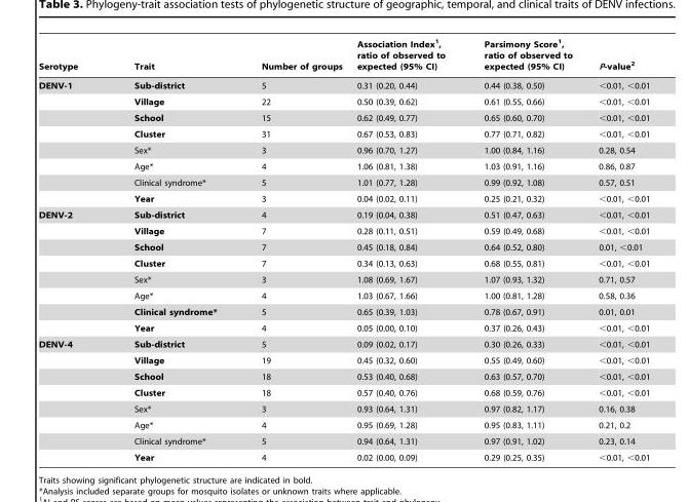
<table><thead><tr><td>Serotype</td><td>Trait</td><td>Number of groups</td><td>Association Index<sup>1</sup>, ratio of observed to expected (95% CI)</td><td>Parsimony Score<sup>1</sup>, ratio of observed to expected (95% CI)</td><td>P-value<sup>2</sup></td></tr></thead><tbody><tr><td rowspan="8">DENV-1</td><td>Sub-district</td><td>5</td><td>0.31 (0.20, 0.44)</td><td>0.44 (0.38, 0.50)</td><td>&lt;0.01, &lt;0.01</td></tr><tr><td>Village</td><td>22</td><td>0.50 (0.39, 0.62)</td><td>0.61 (0.55, 0.66)</td><td>&lt;0.01, &lt;0.01</td></tr><tr><td>School</td><td>15</td><td>0.62 (0.49, 0.77)</td><td>0.65 (0.60, 0.70)</td><td>&lt;0.01, &lt;0.01</td></tr><tr><td>Cluster</td><td>31</td><td>0.67 (0.53, 0.83)</td><td>0.77 (0.71, 0.82)</td><td>&lt;0.01, &lt;0.01</td></tr><tr><td>Sex*</td><td>3</td><td>0.96 (0.70, 1.27)</td><td>1.00 (0.84, 1.16)</td><td>0.28, 0.54</td></tr><tr><td>Age*</td><td>4</td><td>1.06 (0.81, 1.38)</td><td>1.03 (0.91, 1.16)</td><td>0.86, 0.87</td></tr><tr><td>Clinical syndrome*</td><td>5</td><td>1.01 (0.77, 1.28)</td><td>0.99 (0.92, 1.08)</td><td>0.57, 0.51</td></tr><tr><td>Year</td><td>3</td><td>0.04 (0.02, 0.11)</td><td>0.25 (0.21, 0.32)</td><td>&lt;0.01, &lt;0.01</td></tr><tr><td rowspan="8">DENV-2</td><td>Sub-district</td><td>4</td><td>0.19 (0.04, 0.38)</td><td>0.51 (0.47, 0.63)</td><td>&lt;0.01, &lt;0.01</td></tr><tr><td>Village</td><td>7</td><td>0.28 (0.11, 0.51)</td><td>0.59 (0.49, 0.68)</td><td>&lt;0.01, &lt;0.01</td></tr><tr><td>School</td><td>7</td><td>0.45 (0.18, 0.84)</td><td>0.64 (0.52, 0.80)</td><td>0.01, &lt;0.01</td></tr><tr><td>Cluster</td><td>7</td><td>0.34 (0.13, 0.63)</td><td>0.68 (0.55, 0.81)</td><td>&lt;0.01, &lt;0.01</td></tr><tr><td>Sex*</td><td>3</td><td>1.08 (0.69, 1.67)</td><td>1.07 (0.93, 1.32)</td><td>0.71, 0.57</td></tr><tr><td>Age*</td><td>4</td><td>1.03 (0.67, 1.66)</td><td>1.00 (0.81, 1.28)</td><td>0.58, 0.36</td></tr><tr><td>Clinical syndrome*</td><td>5</td><td>0.65 (0.39, 1.03)</td><td>0.78 (0.67, 0.91)</td><td>0.01, 0.01</td></tr><tr><td>Year</td><td>4</td><td>0.05 (0.00, 0.10)</td><td>0.37 (0.26, 0.43)</td><td>&lt;0.01, &lt;0.01</td></tr><tr><td rowspan="8">DENV-4</td><td>Sub-district</td><td>5</td><td>0.09 (0.02, 0.17)</td><td>0.30 (0.26, 0.33)</td><td>&lt;0.01, &lt;0.01</td></tr><tr><td>Village</td><td>19</td><td>0.45 (0.32, 0.60)</td><td>0.55 (0.49, 0.60)</td><td>&lt;0.01, &lt;0.01</td></tr><tr><td>School</td><td>18</td><td>0.53 (0.40, 0.68)</td><td>0.63 (0.57, 0.70)</td><td>&lt;0.01, &lt;0.01</td></tr><tr><td>Cluster</td><td>18</td><td>0.57 (0.40, 0.76)</td><td>0.68 (0.59, 0.76)</td><td>&lt;0.01, &lt;0.01</td></tr><tr><td>Sex*</td><td>3</td><td>0.93 (0.64, 1.31)</td><td>0.97 (0.82, 1.17)</td><td>0.16, 0.38</td></tr><tr><td>Age*</td><td>4</td><td>0.95 (0.69, 1.28)</td><td>0.95 (0.83, 1.11)</td><td>0.21, 0.2</td></tr><tr><td>Clinical syndrome*</td><td>5</td><td>0.94 (0.64, 1.31)</td><td>0.97 (0.91, 1.02)</td><td>0.23, 0.14</td></tr><tr><td>Year</td><td>4</td><td>0.02 (0.00, 0.09)</td><td>0.29 (0.25, 0.35)</td><td>&lt;0.01, &lt;0.01</td></tr></tbody></table>